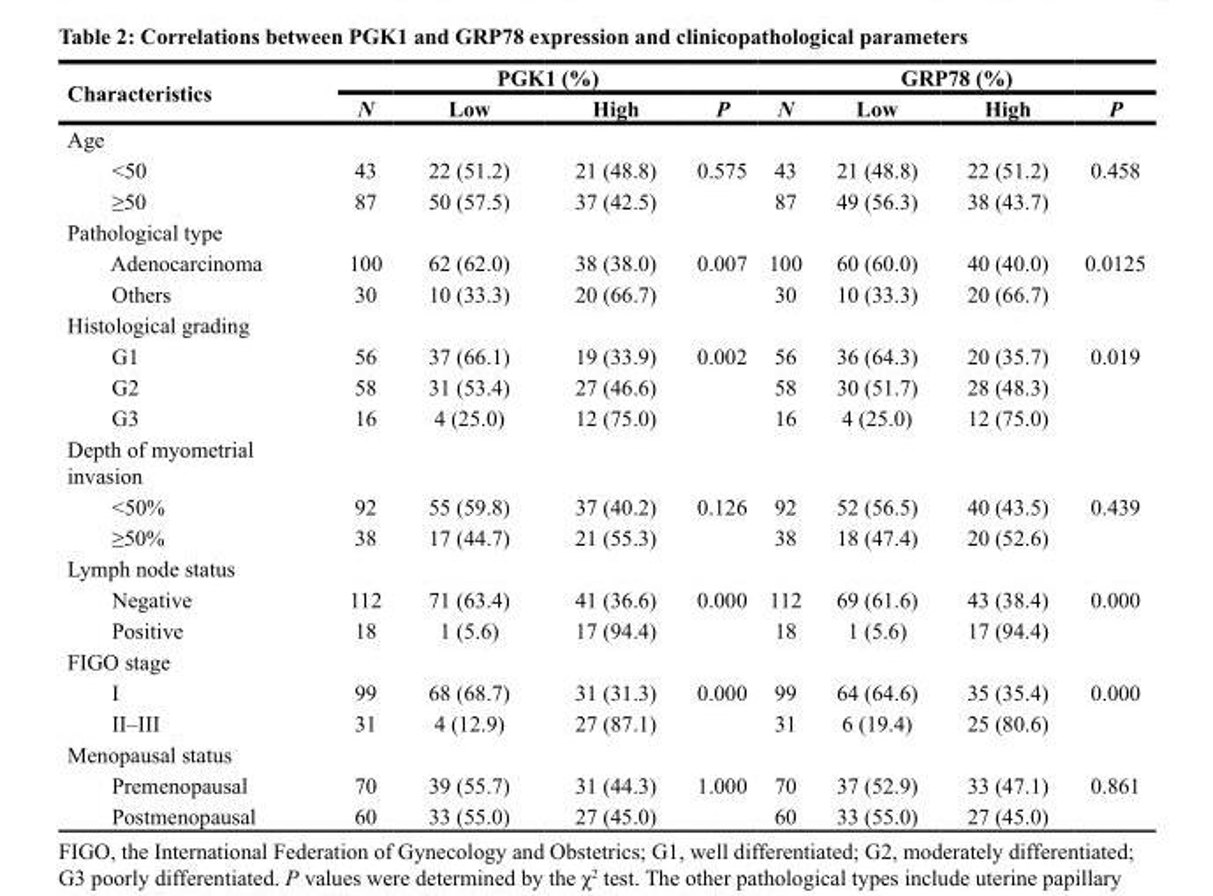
<table><thead><tr><td rowspan="2">Characteristics</td><td colspan="4">PGK1 (%)</td><td colspan="4">GRP78 (%)</td></tr><tr><td>N</td><td>Low</td><td>High</td><td>P</td><td>N</td><td>Low</td><td>High</td><td>P</td></tr></thead><tbody><tr><td colspan="9">Age</td></tr><tr><td>&lt;50</td><td>43</td><td>22 (51.2)</td><td>21 (48.8)</td><td>0.575</td><td>43</td><td>21 (48.8)</td><td>22 (51.2)</td><td>0.458</td></tr><tr><td>≥50</td><td>87</td><td>50 (57.5)</td><td>37 (42.5)</td><td></td><td>87</td><td>49 (56.3)</td><td>38 (43.7)</td><td></td></tr><tr><td colspan="9">Pathological type</td></tr><tr><td>Adenocarcinoma</td><td>100</td><td>62 (62.0)</td><td>38 (38.0)</td><td>0.007</td><td>100</td><td>60 (60.0)</td><td>40 (40.0)</td><td>0.0125</td></tr><tr><td>Others</td><td>30</td><td>10 (33.3)</td><td>20 (66.7)</td><td></td><td>30</td><td>10 (33.3)</td><td>20 (66.7)</td><td></td></tr><tr><td colspan="9">Histological grading</td></tr><tr><td>G1</td><td>56</td><td>37 (66.1)</td><td>19 (33.9)</td><td>0.002</td><td>56</td><td>36 (64.3)</td><td>20 (35.7)</td><td>0.019</td></tr><tr><td>G2</td><td>58</td><td>31 (53.4)</td><td>27 (46.6)</td><td></td><td>58</td><td>30 (51.7)</td><td>28 (48.3)</td><td></td></tr><tr><td>G3</td><td>16</td><td>4 (25.0)</td><td>12 (75.0)</td><td></td><td>16</td><td>4 (25.0)</td><td>12 (75.0)</td><td></td></tr><tr><td colspan="9">Depth of myometrial invasion</td></tr><tr><td>&lt;50%</td><td>92</td><td>55 (59.8)</td><td>37 (40.2)</td><td>0.126</td><td>92</td><td>52 (56.5)</td><td>40 (43.5)</td><td>0.439</td></tr><tr><td>≥50%</td><td>38</td><td>17 (44.7)</td><td>21 (55.3)</td><td></td><td>38</td><td>18 (47.4)</td><td>20 (52.6)</td><td></td></tr><tr><td colspan="9">Lymph node status</td></tr><tr><td>Negative</td><td>112</td><td>71 (63.4)</td><td>41 (36.6)</td><td>0.000</td><td>112</td><td>69 (61.6)</td><td>43 (38.4)</td><td>0.000</td></tr><tr><td>Positive</td><td>18</td><td>1 (5.6)</td><td>17 (94.4)</td><td></td><td>18</td><td>1 (5.6)</td><td>17 (94.4)</td><td></td></tr><tr><td colspan="9">FIGO stage</td></tr><tr><td>I</td><td>99</td><td>68 (68.7)</td><td>31 (31.3)</td><td>0.000</td><td>99</td><td>64 (64.6)</td><td>35 (35.4)</td><td>0.000</td></tr><tr><td>II–III</td><td>31</td><td>4 (12.9)</td><td>27 (87.1)</td><td></td><td>31</td><td>6 (19.4)</td><td>25 (80.6)</td><td></td></tr><tr><td colspan="9">Menopausal status</td></tr><tr><td>Premenopausal</td><td>70</td><td>39 (55.7)</td><td>31 (44.3)</td><td>1.000</td><td>70</td><td>37 (52.9)</td><td>33 (47.1)</td><td>0.861</td></tr><tr><td>Postmenopausal</td><td>60</td><td>33 (55.0)</td><td>27 (45.0)</td><td></td><td>60</td><td>33 (55.0)</td><td>27 (45.0)</td><td></td></tr></tbody></table>